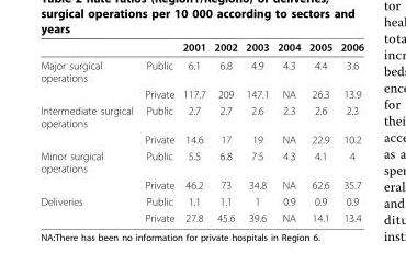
<table><thead><tr><td></td><td></td><td>2001</td><td>2002</td><td>2003</td><td>2004</td><td>2005</td><td>2006</td></tr></thead><tbody><tr><td rowspan="2">Major surgical operations</td><td>Public</td><td>6.1</td><td>6.8</td><td>4.9</td><td>4.3</td><td>4.4</td><td>3.6</td></tr><tr><td>Private</td><td>117.7</td><td>209</td><td>147.1</td><td>NA</td><td>26.3</td><td>13.9</td></tr><tr><td rowspan="2">Intermediate surgical operations</td><td>Public</td><td>2.7</td><td>2.7</td><td>2.6</td><td>2.3</td><td>2.6</td><td>2.3</td></tr><tr><td>Private</td><td>14.6</td><td>17</td><td>19</td><td>NA</td><td>22.9</td><td>10.2</td></tr><tr><td rowspan="2">Minor surgical operations</td><td>Public</td><td>5.5</td><td>6.8</td><td>7.5</td><td>4.3</td><td>4.1</td><td>4</td></tr><tr><td>Private</td><td>46.2</td><td>73</td><td>34.8</td><td>NA</td><td>62.6</td><td>35.7</td></tr><tr><td rowspan="2">Deliveries</td><td>Public</td><td>1.1</td><td>1.1</td><td>1</td><td>0.9</td><td>0.9</td><td>0.9</td></tr><tr><td>Private</td><td>27.8</td><td>45.6</td><td>39.6</td><td>NA</td><td>14.1</td><td>13.4</td></tr></tbody></table>